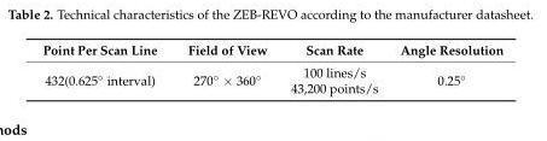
<table><thead><tr><td>Point Per Scan Line</td><td>Field of View</td><td>Scan Rate</td><td>Angle Resolution</td></tr></thead><tbody><tr><td>432(0.625◦ interval)</td><td>270◦ × 360◦</td><td>100 lines/s 43,200 points/s</td><td>0.25◦</td></tr></tbody></table>